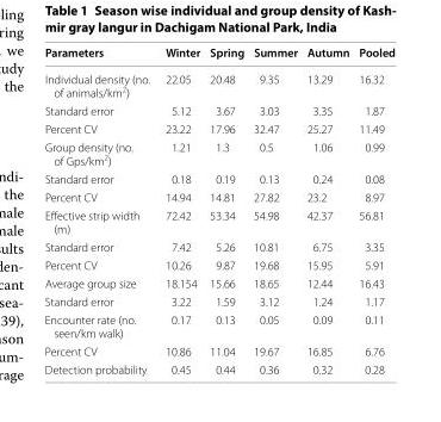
<table><thead><tr><td>Parameters</td><td>Winter</td><td>Spring</td><td>Summer</td><td>Autumn</td><td>Pooled</td></tr></thead><tbody><tr><td>Individual density (no. of animals/km<sup>2</sup>)</td><td>22.05</td><td>20.48</td><td>9.35</td><td>13.29</td><td>16.32</td></tr><tr><td>Standard error</td><td>5.12</td><td>3.67</td><td>3.03</td><td>3.35</td><td>1.87</td></tr><tr><td>Percent CV</td><td>23.22</td><td>17.96</td><td>32.47</td><td>25.27</td><td>11.49</td></tr><tr><td>Group density (no. of Gps/km<sup>2</sup>)</td><td>1.21</td><td>1.3</td><td>0.5</td><td>1.06</td><td>0.99</td></tr><tr><td>Standard error</td><td>0.18</td><td>0.19</td><td>0.13</td><td>0.24</td><td>0.08</td></tr><tr><td>Percent CV</td><td>14.94</td><td>14.81</td><td>27.82</td><td>23.2</td><td>8.97</td></tr><tr><td>Effective strip width (m)</td><td>72.42</td><td>53.34</td><td>54.98</td><td>42.37</td><td>56.81</td></tr><tr><td>Standard error</td><td>7.42</td><td>5.26</td><td>10.81</td><td>6.75</td><td>3.35</td></tr><tr><td>Percent CV</td><td>10.26</td><td>9.87</td><td>19.68</td><td>15.95</td><td>5.91</td></tr><tr><td>Average group size</td><td>18.154</td><td>15.66</td><td>18.65</td><td>12.44</td><td>16.43</td></tr><tr><td>Standard error</td><td>3.22</td><td>1.59</td><td>3.12</td><td>1.24</td><td>1.17</td></tr><tr><td>Encounter rate (no. seen/km walk)</td><td>0.17</td><td>0.13</td><td>0.05</td><td>0.09</td><td>0.11</td></tr><tr><td>Percent CV</td><td>10.86</td><td>11.04</td><td>19.67</td><td>16.85</td><td>6.76</td></tr><tr><td>Detection probability</td><td>0.45</td><td>0.44</td><td>0.36</td><td>0.32</td><td>0.28</td></tr></tbody></table>